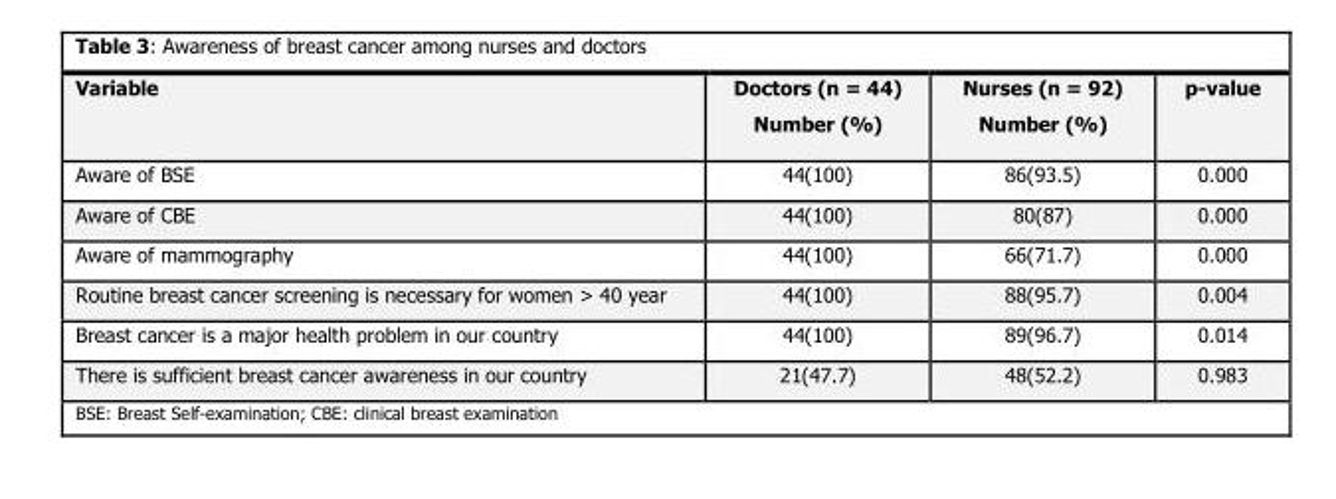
<table><thead><tr><td>Variable</td><td>Doctors (n = 44) Number (%)</td><td>Nurses (n = 92) Number (%)</td><td>p-value</td></tr></thead><tbody><tr><td>Aware of BSE</td><td>44(100)</td><td>86(93.5)</td><td>0.000</td></tr><tr><td>Aware of CBE</td><td>44(100)</td><td>80(87)</td><td>0.000</td></tr><tr><td>Aware of mammography</td><td>44(100)</td><td>66(71.7)</td><td>0.000</td></tr><tr><td>Routine breast cancer screening is necessary for women &gt; 40 year</td><td>44(100)</td><td>88(95.7)</td><td>0.004</td></tr><tr><td>Breast cancer is a major health problem in our country</td><td>44(100)</td><td>89(96.7)</td><td>0.014</td></tr><tr><td>There is sufficient breast cancer awareness in our country</td><td>21(47.7)</td><td>48(52.2)</td><td>0.983</td></tr><tr><td colspan="4">BSE: Breast Self-examination; CBE: clinical breast examination</td></tr></tbody></table>